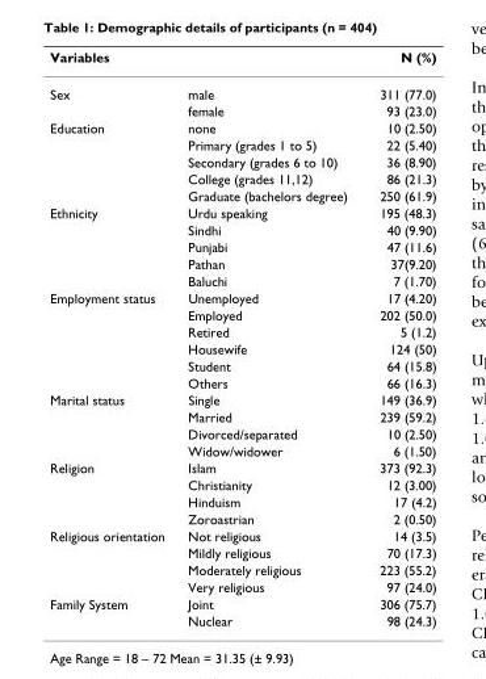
<table><thead><tr><td>Variables</td><td></td><td>N (%)</td></tr></thead><tbody><tr><td rowspan="2">Sex</td><td>male</td><td>311 (77.0)</td></tr><tr><td>female</td><td>93 (23.0)</td></tr><tr><td rowspan="5">Education</td><td>none</td><td>10 (2.50)</td></tr><tr><td>Primary (grades 1 to 5)</td><td>22 (5.40)</td></tr><tr><td>Secondary (grades 6 to 10)</td><td>36 (8.90)</td></tr><tr><td>College (grades 11,12)</td><td>86 (21.3)</td></tr><tr><td>Graduate (bachelors degree)</td><td>250 (61.9)</td></tr><tr><td rowspan="5">Ethnicity</td><td>Urdu speaking</td><td>195 (48.3)</td></tr><tr><td>Sindhi</td><td>40 (9.90)</td></tr><tr><td>Punjabi</td><td>47 (11.6)</td></tr><tr><td>Pathan</td><td>37(9.20)</td></tr><tr><td>Baluchi</td><td>7 (1.70)</td></tr><tr><td rowspan="6">Employment status</td><td>Unemployed</td><td>17 (4.20)</td></tr><tr><td>Employed</td><td>202 (50.0)</td></tr><tr><td>Retired</td><td>5 (1.2)</td></tr><tr><td>Housewife</td><td>124 (50)</td></tr><tr><td>Student</td><td>64 (15.8)</td></tr><tr><td>Others</td><td>66 (16.3)</td></tr><tr><td rowspan="4">Marital status</td><td>Single</td><td>149 (36.9)</td></tr><tr><td>Married</td><td>239 (59.2)</td></tr><tr><td>Divorced/separated</td><td>10 (2.50)</td></tr><tr><td>Widow/widower</td><td>6 (1.50)</td></tr><tr><td rowspan="4">Religion</td><td>Islam</td><td>373 (92.3)</td></tr><tr><td>Christianity</td><td>12 (3.00)</td></tr><tr><td>Hinduism</td><td>17 (4.2)</td></tr><tr><td>Zoroastrian</td><td>2 (0.50)</td></tr><tr><td rowspan="4">Religious orientation</td><td>Not religious</td><td>14 (3.5)</td></tr><tr><td>Mildly religious</td><td>70 (17.3)</td></tr><tr><td>Moderately religious</td><td>223 (55.2)</td></tr><tr><td>Very religious</td><td>97 (24.0)</td></tr><tr><td rowspan="2">Family System</td><td>Joint</td><td>306 (75.7)</td></tr><tr><td>Nuclear</td><td>98 (24.3)</td></tr></tbody></table>